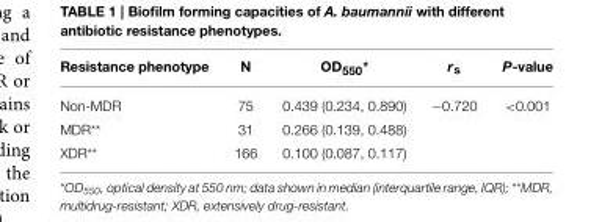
<table><thead><tr><td>Resistance phenotype</td><td>N</td><td>OD<sub>550</sub>*</td><td>r<sub>s</sub></td><td>P-value</td></tr></thead><tbody><tr><td>Non-MDR</td><td>75</td><td>0.439 (0.234, 0.890)</td><td>−0.720</td><td>&lt;0.001</td></tr><tr><td>MDR**</td><td>31</td><td>0.266 (0.139, 0.488)</td><td></td><td></td></tr><tr><td>XDR**</td><td>166</td><td>0.100 (0.087, 0.117)</td><td></td><td></td></tr></tbody></table>